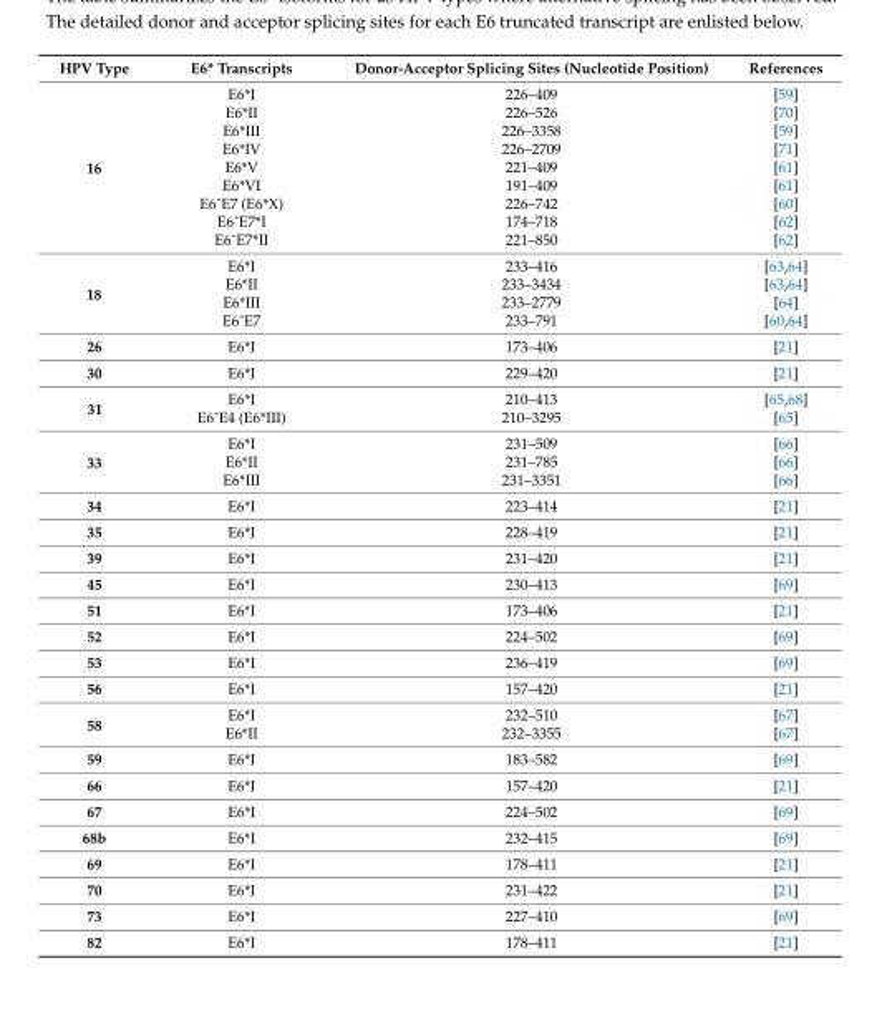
<table><thead><tr><td>HPV Type</td><td>E6* Transcripts</td><td>Donor-Acceptor Splicing Sites (Nucleotide Position)</td><td>References</td></tr></thead><tbody><tr><td rowspan="9">16</td><td>E6*I</td><td>226–409</td><td>[59]</td></tr><tr><td>E6*II</td><td>226–526</td><td>[70]</td></tr><tr><td>E6*III</td><td>226–3358</td><td>[59]</td></tr><tr><td>E6*IV</td><td>226–2709</td><td>[71]</td></tr><tr><td>E6*V</td><td>221–409</td><td>[61]</td></tr><tr><td>E6*VI</td><td>191–409</td><td>[61]</td></tr><tr><td>E6ˆE7 (E6*X)</td><td>226–742</td><td>[60]</td></tr><tr><td>E6ˆE7*I</td><td>174–718</td><td>[62]</td></tr><tr><td>E6ˆE7*II</td><td>221–850</td><td>[62]</td></tr><tr><td rowspan="4">18</td><td>E6*I</td><td>233–416</td><td>[63,64]</td></tr><tr><td>E6*II</td><td>233–3434</td><td>[63,64]</td></tr><tr><td>E6*III</td><td>233–2779</td><td>[64]</td></tr><tr><td>E6ˆE7</td><td>233–791</td><td>[60,64]</td></tr><tr><td>26</td><td>E6*I</td><td>173–406</td><td>[21]</td></tr><tr><td>30</td><td>E6*I</td><td>229–420</td><td>[21]</td></tr><tr><td rowspan="2">31</td><td>E6*I</td><td>210–413</td><td>[65,68]</td></tr><tr><td>E6ˆE4 (E6*III)</td><td>210–3295</td><td>[65]</td></tr><tr><td rowspan="3">33</td><td>E6*I</td><td>231–509</td><td>[66]</td></tr><tr><td>E6*II</td><td>231–785</td><td>[66]</td></tr><tr><td>E6*III</td><td>231–3351</td><td>[66]</td></tr><tr><td>34</td><td>E6*I</td><td>223–414</td><td>[21]</td></tr><tr><td>35</td><td>E6*I</td><td>228–419</td><td>[21]</td></tr><tr><td>39</td><td>E6*I</td><td>231–420</td><td>[21]</td></tr><tr><td>45</td><td>E6*I</td><td>230–413</td><td>[69]</td></tr><tr><td>51</td><td>E6*I</td><td>173–406</td><td>[21]</td></tr><tr><td>52</td><td>E6*I</td><td>224–502</td><td>[69]</td></tr><tr><td>53</td><td>E6*I</td><td>236–419</td><td>[69]</td></tr><tr><td>56</td><td>E6*I</td><td>157–420</td><td>[21]</td></tr><tr><td rowspan="2">58</td><td>E6*I</td><td>232–510</td><td>[67]</td></tr><tr><td>E6*II</td><td>232–3355</td><td>[67]</td></tr><tr><td>59</td><td>E6*I</td><td>183–582</td><td>[69]</td></tr><tr><td>66</td><td>E6*I</td><td>157–420</td><td>[21]</td></tr><tr><td>67</td><td>E6*I</td><td>224–502</td><td>[69]</td></tr><tr><td>68b</td><td>E6*I</td><td>232–415</td><td>[69]</td></tr><tr><td>69</td><td>E6*I</td><td>178–411</td><td>[21]</td></tr><tr><td>70</td><td>E6*I</td><td>231–422</td><td>[21]</td></tr><tr><td>73</td><td>E6*I</td><td>227–410</td><td>[69]</td></tr><tr><td>82</td><td>E6*I</td><td>178–411</td><td>[21]</td></tr></tbody></table>